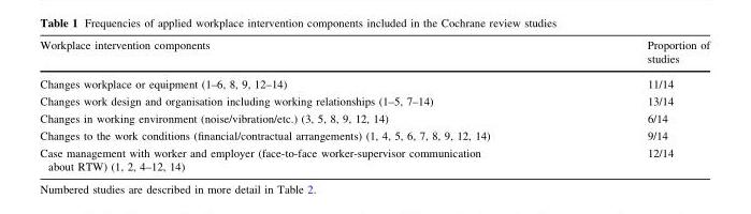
<table><thead><tr><td>Workplace intervention components</td><td>Proportion of studies</td></tr></thead><tbody><tr><td>Changes workplace or equipment (1–6, 8, 9, 12–14)</td><td>11/14</td></tr><tr><td>Changes work design and organisation including working relationships (1–5, 7–14)</td><td>13/14</td></tr><tr><td>Changes in working environment (noise/vibration/etc.) (3, 5, 8, 9, 12, 14)</td><td>6/14</td></tr><tr><td>Changes to the work conditions (financial/contractual arrangements) (1, 4, 5, 6, 7, 8, 9, 12, 14)</td><td>9/14</td></tr><tr><td>Case management with worker and employer (face-to-face worker-supervisor communication about RTW) (1, 2, 4–12, 14)</td><td>12/14</td></tr></tbody></table>